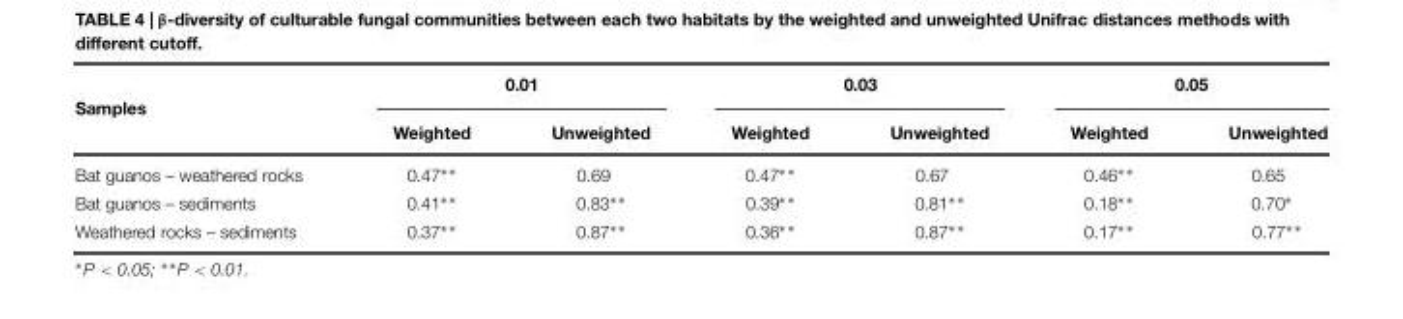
<table><thead><tr><td rowspan="2">Samples</td><td colspan="2">0.01</td><td colspan="2">0.03</td><td colspan="2">0.05</td></tr><tr><td>Weighted</td><td>Unweighted</td><td>Weighted</td><td>Unweighted</td><td>Weighted</td><td>Unweighted</td></tr></thead><tbody><tr><td>Bat guanos – weathered rocks</td><td>0.47∗∗</td><td>0.69</td><td>0.47∗∗</td><td>0.67</td><td>0.46∗∗</td><td>0.65</td></tr><tr><td>Bat guanos – sediments</td><td>0.41∗∗</td><td>0.83∗∗</td><td>0.39∗∗</td><td>0.81∗∗</td><td>0.18∗∗</td><td>0.70∗</td></tr><tr><td>Weathered rocks – sediments</td><td>0.37∗∗</td><td>0.87∗∗</td><td>0.36∗∗</td><td>0.87∗∗</td><td>0.17∗∗</td><td>0.77∗∗</td></tr></tbody></table>